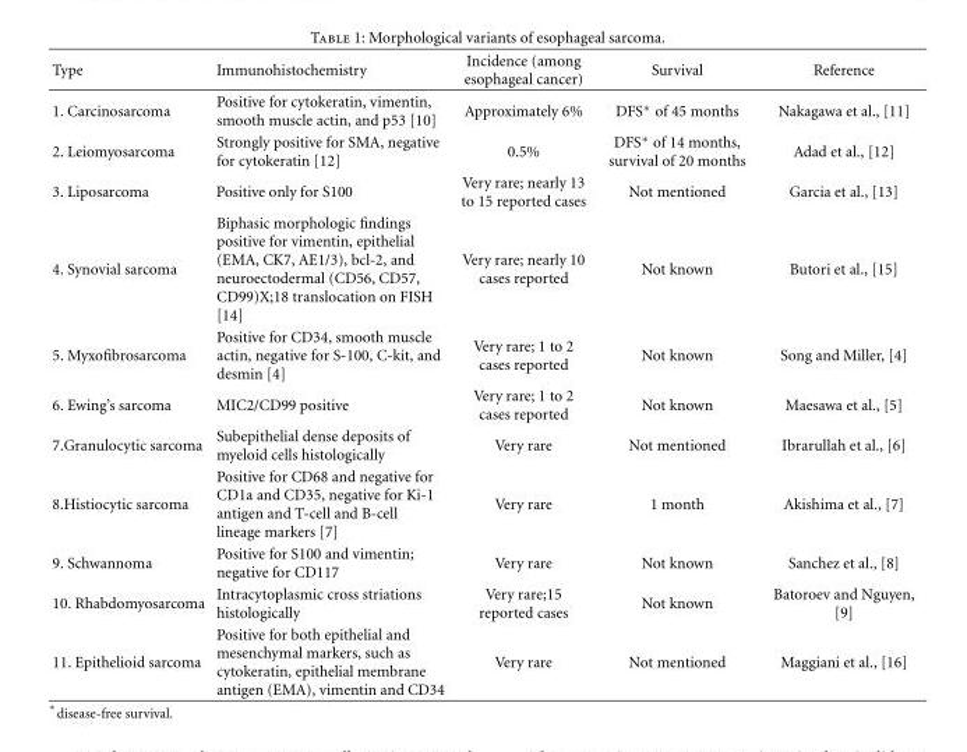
<table><thead><tr><td>Type</td><td>Immunohistochemistry</td><td>Incidence (among esophageal cancer)</td><td>Survival</td><td>Reference</td></tr></thead><tbody><tr><td>1. Carcinosarcoma</td><td>Positive for cytokeratin, vimentin, smooth muscle actin, and p53 [10]</td><td>Approximately 6%</td><td>DFS∗ of 45 months</td><td>Nakagawa et al., [11]</td></tr><tr><td>2. Leiomyosarcoma</td><td>Strongly positive for SMA, negative for cytokeratin [12]</td><td>0.5%</td><td>DFS∗ of 14 months, survival of 20 months</td><td>Adad et al., [12]</td></tr><tr><td>3. Liposarcoma</td><td>Positive only for S100</td><td>Very rare; nearly 13 to 15 reported cases</td><td>Not mentioned</td><td>Garcia et al., [13]</td></tr><tr><td>4. Synovial sarcoma</td><td>Biphasic morphologic findings positive for vimentin, epithelial (EMA, CK7, AE1/3), bcl-2, and neuroectodermal (CD56, CD57, CD99)X;18 translocation on FISH [14]</td><td>Very rare; nearly 10 cases reported</td><td>Not known</td><td>Butori et al., [15]</td></tr><tr><td>5. Myxofibrosarcoma</td><td>Positive for CD34, smooth muscle actin, negative for S-100, C-kit, and desmin [4]</td><td>Very rare; 1 to 2 cases reported</td><td>Not known</td><td>Song and Miller, [4]</td></tr><tr><td>6. Ewing’s sarcoma</td><td>MIC2/CD99 positive</td><td>Very rare; 1 to 2 cases reported</td><td>Not known</td><td>Maesawa et al., [5]</td></tr><tr><td>7.Granulocytic sarcoma</td><td>Subepithelial dense deposits of myeloid cells histologically</td><td>Very rare</td><td>Not mentioned</td><td>Ibrarullah et al., [6]</td></tr><tr><td>8.Histiocytic sarcoma</td><td>Positive for CD68 and negative for CD1a and CD35, negative for Ki-1 antigen and T-cell and B-cell lineage markers [7]</td><td>Very rare</td><td>1 month</td><td>Akishima et al., [7]</td></tr><tr><td>9. Schwannoma</td><td>Positive for S100 and vimentin; negative for CD117</td><td>Very rare</td><td>Not known</td><td>Sanchez et al., [8]</td></tr><tr><td>10. Rhabdomyosarcoma</td><td>Intracytoplasmic cross striations histologically</td><td>Very rare;15 reported cases</td><td>Not known</td><td>Batoroev and Nguyen, [9]</td></tr><tr><td>11. Epithelioid sarcoma</td><td>Positive for both epithelial and mesenchymal markers, such as cytokeratin, epithelial membrane antigen (EMA), vimentin and CD34</td><td>Very rare</td><td>Not mentioned</td><td>Maggiani et al., [16]</td></tr></tbody></table>